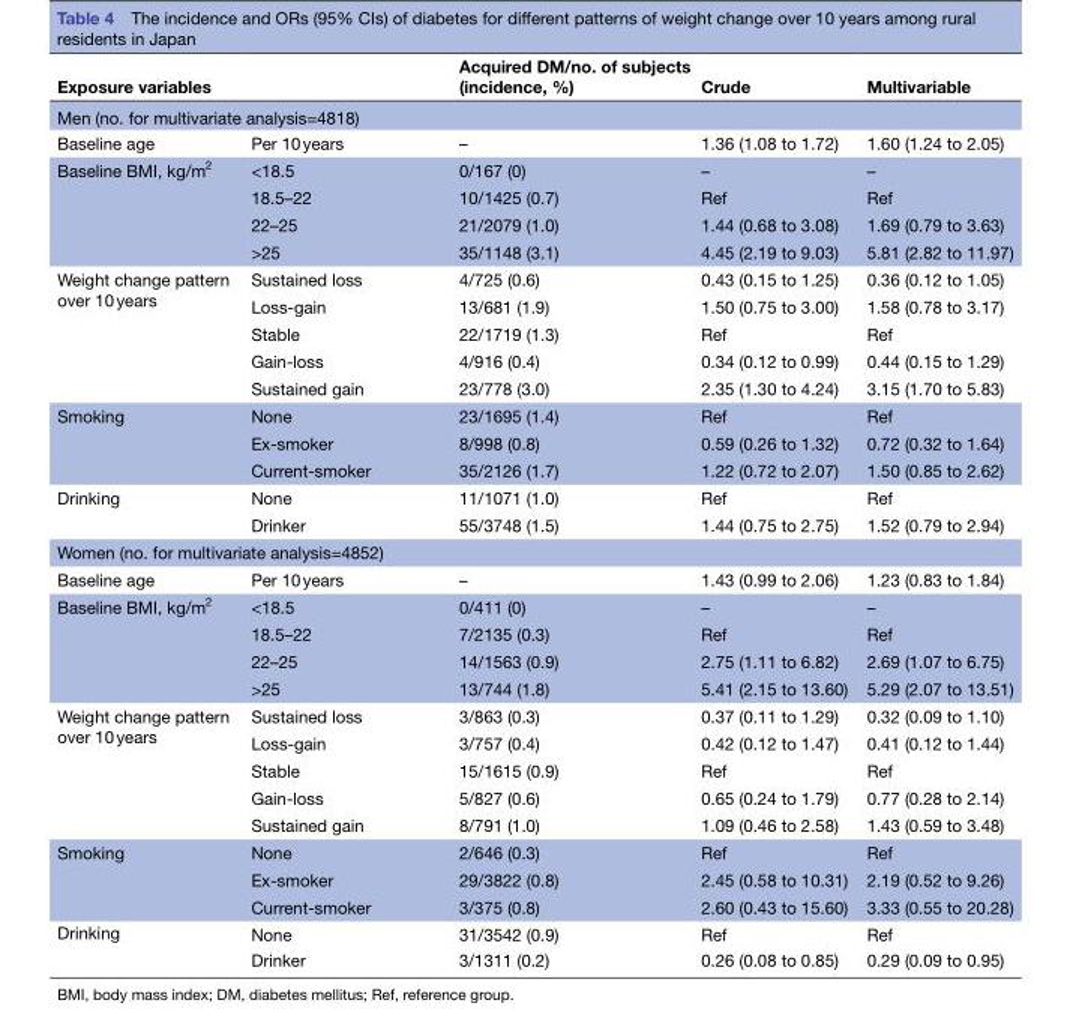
<table><thead><tr><td colspan="2">Exposure variables</td><td>Acquired DM/no. of subjects (incidence, %)</td><td>Crude</td><td>Multivariable</td></tr><tr><td colspan="5">Men (no. for multivariate analysis=4818)</td></tr><tr><td>Baseline age</td><td>Per 10 years</td><td>–</td><td>1.36 (1.08 to 1.72)</td><td>1.60 (1.24 to 2.05)</td></tr></thead><tbody><tr><td rowspan="4">Baseline BMI, kg/m<sup>2</sup></td><td>&lt;18.5</td><td>0/167 (0)</td><td>–</td><td>–</td></tr><tr><td>18.5–22</td><td>10/1425 (0.7)</td><td>Ref</td><td>Ref</td></tr><tr><td>22–25</td><td>21/2079 (1.0)</td><td>1.44 (0.68 to 3.08)</td><td>1.69 (0.79 to 3.63)</td></tr><tr><td>&gt;25</td><td>35/1148 (3.1)</td><td>4.45 (2.19 to 9.03)</td><td>5.81 (2.82 to 11.97)</td></tr><tr><td rowspan="5">Weight change pattern over 10 years</td><td>Sustained loss</td><td>4/725 (0.6)</td><td>0.43 (0.15 to 1.25)</td><td>0.36 (0.12 to 1.05)</td></tr><tr><td>Loss-gain</td><td>13/681 (1.9)</td><td>1.50 (0.75 to 3.00)</td><td>1.58 (0.78 to 3.17)</td></tr><tr><td>Stable</td><td>22/1719 (1.3)</td><td>Ref</td><td>Ref</td></tr><tr><td>Gain-loss</td><td>4/916 (0.4)</td><td>0.34 (0.12 to 0.99)</td><td>0.44 (0.15 to 1.29)</td></tr><tr><td>Sustained gain</td><td>23/778 (3.0)</td><td>2.35 (1.30 to 4.24)</td><td>3.15 (1.70 to 5.83)</td></tr><tr><td rowspan="3">Smoking</td><td>None</td><td>23/1695 (1.4)</td><td>Ref</td><td>Ref</td></tr><tr><td>Ex-smoker</td><td>8/998 (0.8)</td><td>0.59 (0.26 to 1.32)</td><td>0.72 (0.32 to 1.64)</td></tr><tr><td>Current-smoker</td><td>35/2126 (1.7)</td><td>1.22 (0.72 to 2.07)</td><td>1.50 (0.85 to 2.62)</td></tr><tr><td rowspan="2">Drinking</td><td>None</td><td>11/1071 (1.0)</td><td>Ref</td><td>Ref</td></tr><tr><td>Drinker</td><td>55/3748 (1.5)</td><td>1.44 (0.75 to 2.75)</td><td>1.52 (0.79 to 2.94)</td></tr><tr><td colspan="5">Women (no. for multivariate analysis=4852)</td></tr><tr><td>Baseline age</td><td>Per 10 years</td><td>–</td><td>1.43 (0.99 to 2.06)</td><td>1.23 (0.83 to 1.84)</td></tr><tr><td rowspan="4">Baseline BMI, kg/m<sup>2</sup></td><td>&lt;18.5</td><td>0/411 (0)</td><td>–</td><td>–</td></tr><tr><td>18.5–22</td><td>7/2135 (0.3)</td><td>Ref</td><td>Ref</td></tr><tr><td>22–25</td><td>14/1563 (0.9)</td><td>2.75 (1.11 to 6.82)</td><td>2.69 (1.07 to 6.75)</td></tr><tr><td>&gt;25</td><td>13/744 (1.8)</td><td>5.41 (2.15 to 13.60)</td><td>5.29 (2.07 to 13.51)</td></tr><tr><td rowspan="5">Weight change pattern over 10 years</td><td>Sustained loss</td><td>3/863 (0.3)</td><td>0.37 (0.11 to 1.29)</td><td>0.32 (0.09 to 1.10)</td></tr><tr><td>Loss-gain</td><td>3/757 (0.4)</td><td>0.42 (0.12 to 1.47)</td><td>0.41 (0.12 to 1.44)</td></tr><tr><td>Stable</td><td>15/1615 (0.9)</td><td>Ref</td><td>Ref</td></tr><tr><td>Gain-loss</td><td>5/827 (0.6)</td><td>0.65 (0.24 to 1.79)</td><td>0.77 (0.28 to 2.14)</td></tr><tr><td>Sustained gain</td><td>8/791 (1.0)</td><td>1.09 (0.46 to 2.58)</td><td>1.43 (0.59 to 3.48)</td></tr><tr><td rowspan="3">Smoking</td><td>None</td><td>2/646 (0.3)</td><td>Ref</td><td>Ref</td></tr><tr><td>Ex-smoker</td><td>29/3822 (0.8)</td><td>2.45 (0.58 to 10.31)</td><td>2.19 (0.52 to 9.26)</td></tr><tr><td>Current-smoker</td><td>3/375 (0.8)</td><td>2.60 (0.43 to 15.60)</td><td>3.33 (0.55 to 20.28)</td></tr><tr><td rowspan="2">Drinking</td><td>None</td><td>31/3542 (0.9)</td><td>Ref</td><td>Ref</td></tr><tr><td>Drinker</td><td>3/1311 (0.2)</td><td>0.26 (0.08 to 0.85)</td><td>0.29 (0.09 to 0.95)</td></tr></tbody></table>